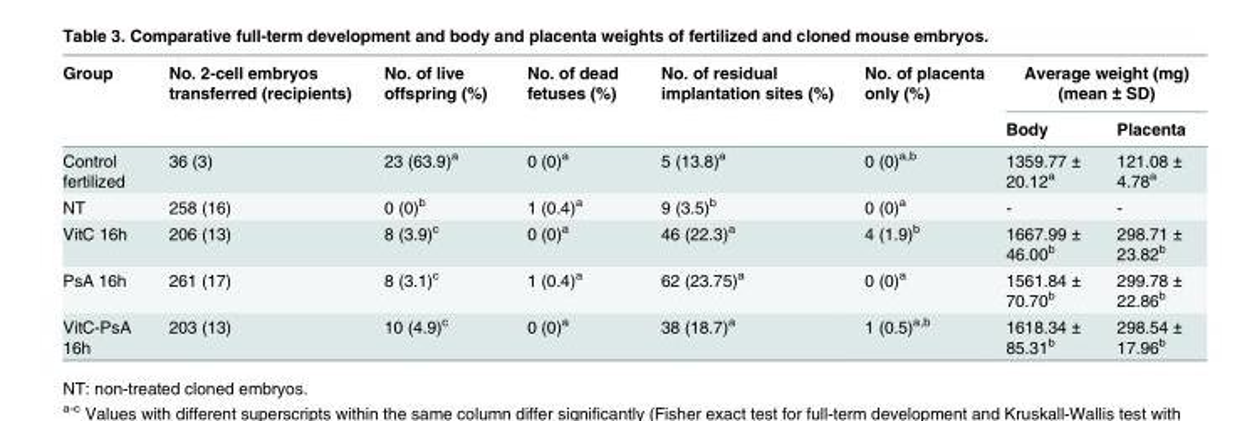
<table><thead><tr><td rowspan="2">Group</td><td rowspan="2">No. 2-cell embryos transferred (recipients)</td><td rowspan="2">No. of live offspring (%)</td><td rowspan="2">No. of dead fetuses (%)</td><td rowspan="2">No. of residual implantation sites (%)</td><td rowspan="2">No. of placenta only (%)</td><td colspan="2">Average weight (mg) (mean ± SD)</td></tr><tr><td>Body</td><td>Placenta</td></tr></thead><tbody><tr><td>Control fertilized</td><td>36 (3)</td><td>23 (63.9)<sup>a</sup></td><td>0 (0)<sup>a</sup></td><td>5 (13.8)<sup>a</sup></td><td>0 (0)<sup>a,b</sup></td><td>1359.77 ± 20.12<sup>a</sup></td><td>121.08 ± 4.78<sup>a</sup></td></tr><tr><td>NT</td><td>258 (16)</td><td>0 (0)<sup>b</sup></td><td>1 (0.4)<sup>a</sup></td><td>9 (3.5)<sup>b</sup></td><td>0 (0)<sup>a</sup></td><td>-</td><td>-</td></tr><tr><td>VitC 16h</td><td>206 (13)</td><td>8 (3.9)<sup>c</sup></td><td>0 (0)<sup>a</sup></td><td>46 (22.3)<sup>a</sup></td><td>4 (1.9)<sup>b</sup></td><td>1667.99 ± 46.00<sup>b</sup></td><td>298.71 ± 23.82<sup>b</sup></td></tr><tr><td>PsA 16h</td><td>261 (17)</td><td>8 (3.1)<sup>c</sup></td><td>1 (0.4)<sup>a</sup></td><td>62 (23.75)<sup>a</sup></td><td>0 (0)<sup>a</sup></td><td>1561.84 ± 70.70<sup>b</sup></td><td>299.78 ± 22.86<sup>b</sup></td></tr><tr><td>VitC-PsA 16h</td><td>203 (13)</td><td>10 (4.9)<sup>c</sup></td><td>0 (0)<sup>a</sup></td><td>38 (18.7)<sup>a</sup></td><td>1 (0.5)<sup>a,b</sup></td><td>1618.34 ± 85.31<sup>b</sup></td><td>298.54 ± 17.96<sup>b</sup></td></tr></tbody></table>